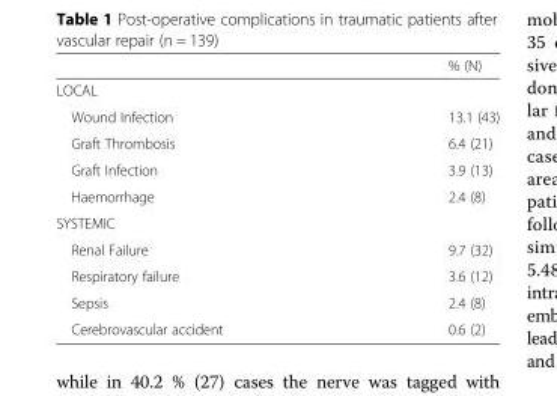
<table><thead><tr><td></td><td>% (N)</td></tr></thead><tbody><tr><td colspan="2">LOCAL</td></tr><tr><td>Wound Infection</td><td>13.1 (43)</td></tr><tr><td>Graft Thrombosis</td><td>6.4 (21)</td></tr><tr><td>Graft Infection</td><td>3.9 (13)</td></tr><tr><td>Haemorrhage</td><td>2.4 (8)</td></tr><tr><td colspan="2">SYSTEMIC</td></tr><tr><td>Renal Failure</td><td>9.7 (32)</td></tr><tr><td>Respiratory failure</td><td>3.6 (12)</td></tr><tr><td>Sepsis</td><td>2.4 (8)</td></tr><tr><td>Cerebrovascular accident</td><td>0.6 (2)</td></tr></tbody></table>